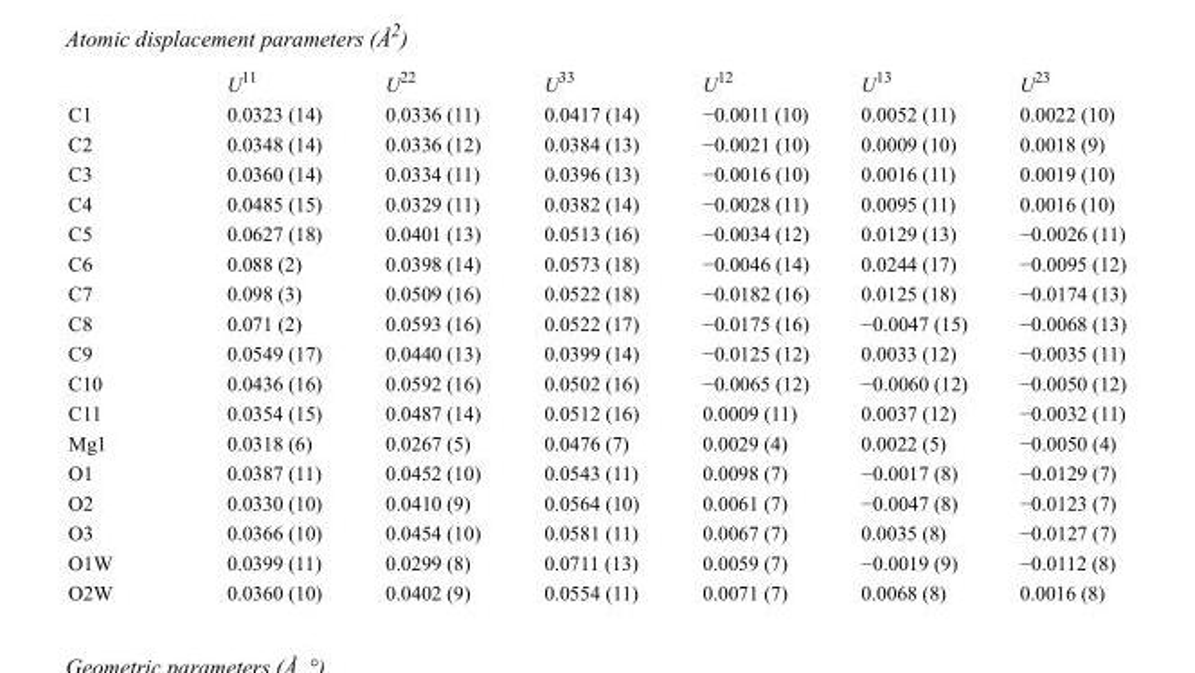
<table><thead><tr><td></td><td>U<sup>11</sup></td><td>U<sup>22</sup></td><td>U<sup>33</sup></td><td>U<sup>12</sup></td><td>U<sup>13</sup></td><td>U<sup>23</sup></td></tr></thead><tbody><tr><td>C1</td><td>0.0323 (14)</td><td>0.0336 (11)</td><td>0.0417 (14)</td><td>−0.0011 (10)</td><td>0.0052 (11)</td><td>0.0022 (10)</td></tr><tr><td>C2</td><td>0.0348 (14)</td><td>0.0336 (12)</td><td>0.0384 (13)</td><td>−0.0021 (10)</td><td>0.0009 (10)</td><td>0.0018 (9)</td></tr><tr><td>C3</td><td>0.0360 (14)</td><td>0.0334 (11)</td><td>0.0396 (13)</td><td>−0.0016 (10)</td><td>0.0016 (11)</td><td>0.0019 (10)</td></tr><tr><td>C4</td><td>0.0485 (15)</td><td>0.0329 (11)</td><td>0.0382 (14)</td><td>−0.0028 (11)</td><td>0.0095 (11)</td><td>0.0016 (10)</td></tr><tr><td>C5</td><td>0.0627 (18)</td><td>0.0401 (13)</td><td>0.0513 (16)</td><td>−0.0034 (12)</td><td>0.0129 (13)</td><td>−0.0026 (11)</td></tr><tr><td>C6</td><td>0.088 (2)</td><td>0.0398 (14)</td><td>0.0573 (18)</td><td>−0.0046 (14)</td><td>0.0244 (17)</td><td>−0.0095 (12)</td></tr><tr><td>C7</td><td>0.098 (3)</td><td>0.0509 (16)</td><td>0.0522 (18)</td><td>−0.0182 (16)</td><td>0.0125 (18)</td><td>−0.0174 (13)</td></tr><tr><td>C8</td><td>0.071 (2)</td><td>0.0593 (16)</td><td>0.0522 (17)</td><td>−0.0175 (16)</td><td>−0.0047 (15)</td><td>−0.0068 (13)</td></tr><tr><td>C9</td><td>0.0549 (17)</td><td>0.0440 (13)</td><td>0.0399 (14)</td><td>−0.0125 (12)</td><td>0.0033 (12)</td><td>−0.0035 (11)</td></tr><tr><td>C10</td><td>0.0436 (16)</td><td>0.0592 (16)</td><td>0.0502 (16)</td><td>−0.0065 (12)</td><td>−0.0060 (12)</td><td>−0.0050 (12)</td></tr><tr><td>C11</td><td>0.0354 (15)</td><td>0.0487 (14)</td><td>0.0512 (16)</td><td>0.0009 (11)</td><td>0.0037 (12)</td><td>−0.0032 (11)</td></tr><tr><td>Mg1</td><td>0.0318 (6)</td><td>0.0267 (5)</td><td>0.0476 (7)</td><td>0.0029 (4)</td><td>0.0022 (5)</td><td>−0.0050 (4)</td></tr><tr><td>O1</td><td>0.0387 (11)</td><td>0.0452 (10)</td><td>0.0543 (11)</td><td>0.0098 (7)</td><td>−0.0017 (8)</td><td>−0.0129 (7)</td></tr><tr><td>O2</td><td>0.0330 (10)</td><td>0.0410 (9)</td><td>0.0564 (10)</td><td>0.0061 (7)</td><td>−0.0047 (8)</td><td>−0.0123 (7)</td></tr><tr><td>O3</td><td>0.0366 (10)</td><td>0.0454 (10)</td><td>0.0581 (11)</td><td>0.0067 (7)</td><td>0.0035 (8)</td><td>−0.0127 (7)</td></tr><tr><td>O1W</td><td>0.0399 (11)</td><td>0.0299 (8)</td><td>0.0711 (13)</td><td>0.0059 (7)</td><td>−0.0019 (9)</td><td>−0.0112 (8)</td></tr><tr><td>O2W</td><td>0.0360 (10)</td><td>0.0402 (9)</td><td>0.0554 (11)</td><td>0.0071 (7)</td><td>0.0068 (8)</td><td>0.0016 (8)</td></tr></tbody></table>